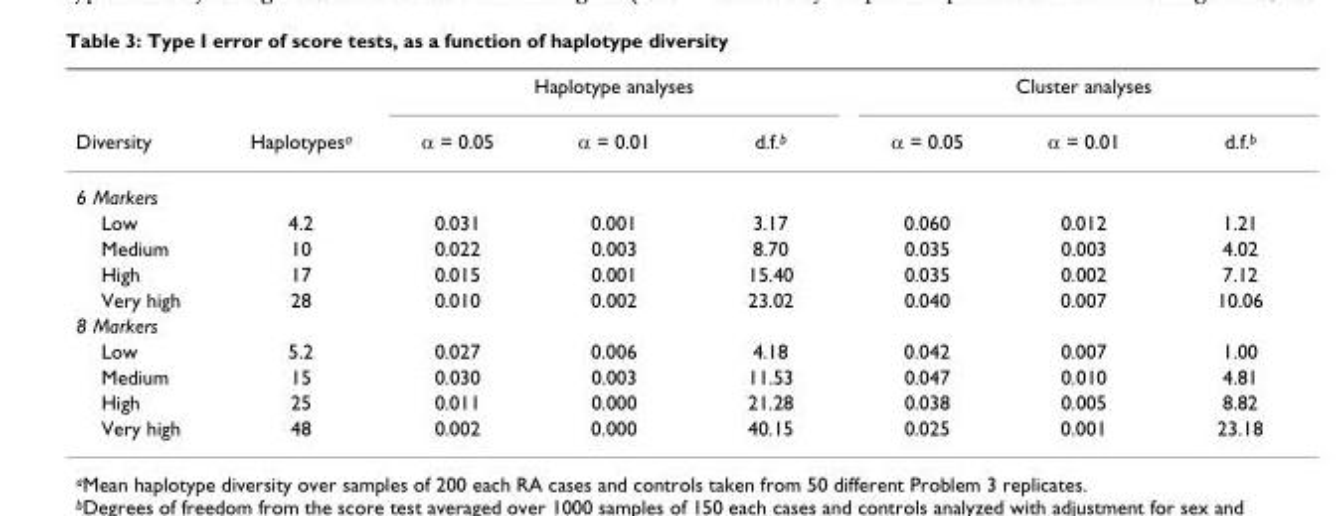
<table><thead><tr><td rowspan="2">Diversity</td><td rowspan="2">Haplotypes<sup>a</sup></td><td colspan="3">Haplotype analyses</td><td colspan="3">Cluster analyses</td></tr><tr><td>α = 0.05</td><td>α = 0.01</td><td>d.f.<sup>b</sup></td><td>α = 0.05</td><td>α = 0.01</td><td>d.f.<sup>b</sup></td></tr></thead><tbody><tr><td colspan="8">6 Markers</td></tr><tr><td>Low</td><td>4.2</td><td>0.031</td><td>0.001</td><td>3.17</td><td>0.060</td><td>0.012</td><td>1.21</td></tr><tr><td>Medium</td><td>10</td><td>0.022</td><td>0.003</td><td>8.70</td><td>0.035</td><td>0.003</td><td>4.02</td></tr><tr><td>High</td><td>17</td><td>0.015</td><td>0.001</td><td>15.40</td><td>0.035</td><td>0.002</td><td>7.12</td></tr><tr><td>Very high</td><td>28</td><td>0.010</td><td>0.002</td><td>23.02</td><td>0.040</td><td>0.007</td><td>10.06</td></tr><tr><td colspan="8">8 Markers</td></tr><tr><td>Low</td><td>5.2</td><td>0.027</td><td>0.006</td><td>4.18</td><td>0.042</td><td>0.007</td><td>1.00</td></tr><tr><td>Medium</td><td>15</td><td>0.030</td><td>0.003</td><td>11.53</td><td>0.047</td><td>0.010</td><td>4.81</td></tr><tr><td>High</td><td>25</td><td>0.011</td><td>0.000</td><td>21.28</td><td>0.038</td><td>0.005</td><td>8.82</td></tr><tr><td>Very high</td><td>48</td><td>0.002</td><td>0.000</td><td>40.15</td><td>0.025</td><td>0.001</td><td>23.18</td></tr></tbody></table>